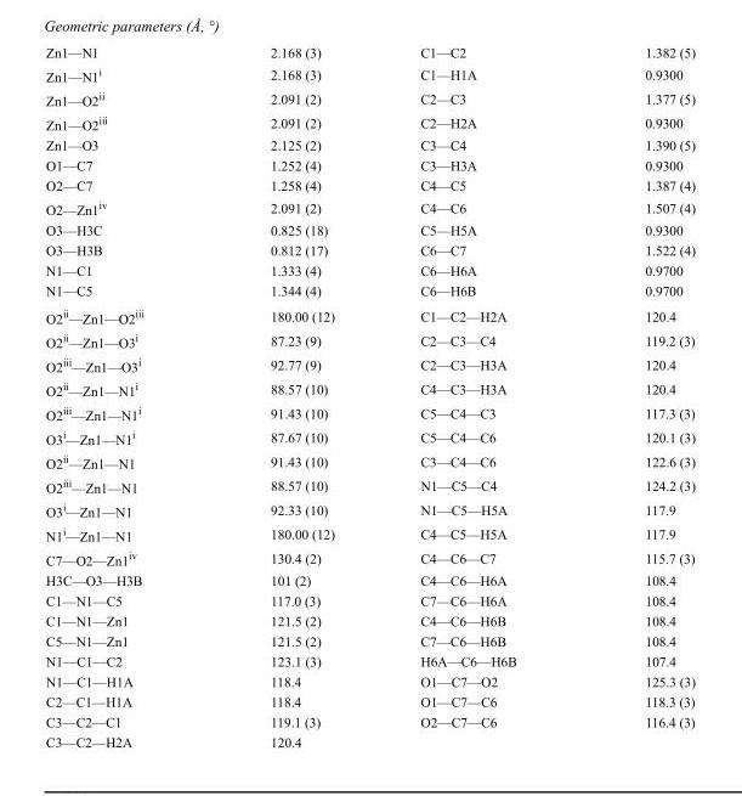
<table><tbody><tr><td>Zn1—N1</td><td>2.168 (3)</td><td>C1—C2</td><td>1.382 (5)</td></tr><tr><td>Zn1—N1<sup>i</sup></td><td>2.168 (3)</td><td>C1—H1A</td><td>0.9300</td></tr><tr><td>Zn1—O2<sup>ii</sup></td><td>2.091 (2)</td><td>C2—C3</td><td>1.377 (5)</td></tr><tr><td>Zn1—O2<sup>iii</sup></td><td>2.091 (2)</td><td>C2—H2A</td><td>0.9300</td></tr><tr><td>Zn1—O3</td><td>2.125 (2)</td><td>C3—C4</td><td>1.390 (5)</td></tr><tr><td>O1—C7</td><td>1.252 (4)</td><td>C3—H3A</td><td>0.9300</td></tr><tr><td>O2—C7</td><td>1.258 (4)</td><td>C4—C5</td><td>1.387 (4)</td></tr><tr><td>O2—Zn1<sup>iv</sup></td><td>2.091 (2)</td><td>C4—C6</td><td>1.507 (4)</td></tr><tr><td>O3—H3C</td><td>0.825 (18)</td><td>C5—H5A</td><td>0.9300</td></tr><tr><td>O3—H3B</td><td>0.812 (17)</td><td>C6—C7</td><td>1.522 (4)</td></tr><tr><td>N1—C1</td><td>1.333 (4)</td><td>C6—H6A</td><td>0.9700</td></tr><tr><td>N1—C5</td><td>1.344 (4)</td><td>C6—H6B</td><td>0.9700</td></tr><tr><td>O2<sup>ii</sup>—Zn1—O2<sup>iii</sup></td><td>180.00 (12)</td><td>C1—C2—H2A</td><td>120.4</td></tr><tr><td>O2<sup>ii</sup>—Zn1—O3<sup>i</sup></td><td>87.23 (9)</td><td>C2—C3—C4</td><td>119.2 (3)</td></tr><tr><td>O2<sup>iii</sup>—Zn1—O3<sup>i</sup></td><td>92.77 (9)</td><td>C2—C3—H3A</td><td>120.4</td></tr><tr><td>O2<sup>ii</sup>—Zn1—N1<sup>i</sup></td><td>88.57 (10)</td><td>C4—C3—H3A</td><td>120.4</td></tr><tr><td>O2<sup>iii</sup>—Zn1—N1<sup>i</sup></td><td>91.43 (10)</td><td>C5—C4—C3</td><td>117.3 (3)</td></tr><tr><td>O3<sup>i</sup>—Zn1—N1<sup>i</sup></td><td>87.67 (10)</td><td>C5—C4—C6</td><td>120.1 (3)</td></tr><tr><td>O2<sup>ii</sup>—Zn1—N1</td><td>91.43 (10)</td><td>C3—C4—C6</td><td>122.6 (3)</td></tr><tr><td>O2<sup>iii</sup>—Zn1—N1</td><td>88.57 (10)</td><td>N1—C5—C4</td><td>124.2 (3)</td></tr><tr><td>O3<sup>i</sup>—Zn1—N1</td><td>92.33 (10)</td><td>N1—C5—H5A</td><td>117.9</td></tr><tr><td>N1<sup>i</sup>—Zn1—N1</td><td>180.00 (12)</td><td>C4—C5—H5A</td><td>117.9</td></tr><tr><td>C7—O2—Zn1<sup>iv</sup></td><td>130.4 (2)</td><td>C4—C6—C7</td><td>115.7 (3)</td></tr><tr><td>H3C—O3—H3B</td><td>101 (2)</td><td>C4—C6—H6A</td><td>108.4</td></tr><tr><td>C1—N1—C5</td><td>117.0 (3)</td><td>C7—C6—H6A</td><td>108.4</td></tr><tr><td>C1—N1—Zn1</td><td>121.5 (2)</td><td>C4—C6—H6B</td><td>108.4</td></tr><tr><td>C5—N1—Zn1</td><td>121.5 (2)</td><td>C7—C6—H6B</td><td>108.4</td></tr><tr><td>N1—C1—C2</td><td>123.1 (3)</td><td>H6A—C6—H6B</td><td>107.4</td></tr><tr><td>N1—C1—H1A</td><td>118.4</td><td>O1—C7—O2</td><td>125.3 (3)</td></tr><tr><td>C2—C1—H1A</td><td>118.4</td><td>O1—C7—C6</td><td>118.3 (3)</td></tr><tr><td>C3—C2—C1</td><td>119.1 (3)</td><td>O2—C7—C6</td><td>116.4 (3)</td></tr><tr><td>C3—C2—H2A</td><td>120.4</td><td></td><td></td></tr></tbody></table>